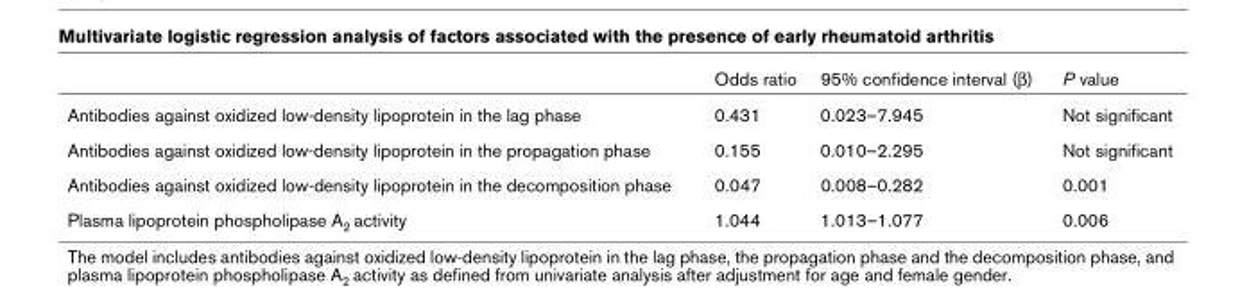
<table><thead><tr><td></td><td>Odds ratio</td><td>95% confidence interval (β)</td><td>P value</td></tr></thead><tbody><tr><td>Antibodies against oxidized low-density lipoprotein in the lag phase</td><td>0.431</td><td>0.023–7.945</td><td>Not significant</td></tr><tr><td>Antibodies against oxidized low-density lipoprotein in the propagation phase</td><td>0.155</td><td>0.010–2.295</td><td>Not significant</td></tr><tr><td>Antibodies against oxidized low-density lipoprotein in the decomposition phase</td><td>0.047</td><td>0.008–0.282</td><td>0.001</td></tr><tr><td>Plasma lipoprotein phospholipase A2 activity</td><td>1.044</td><td>1.013–1.077</td><td>0.006</td></tr></tbody></table>